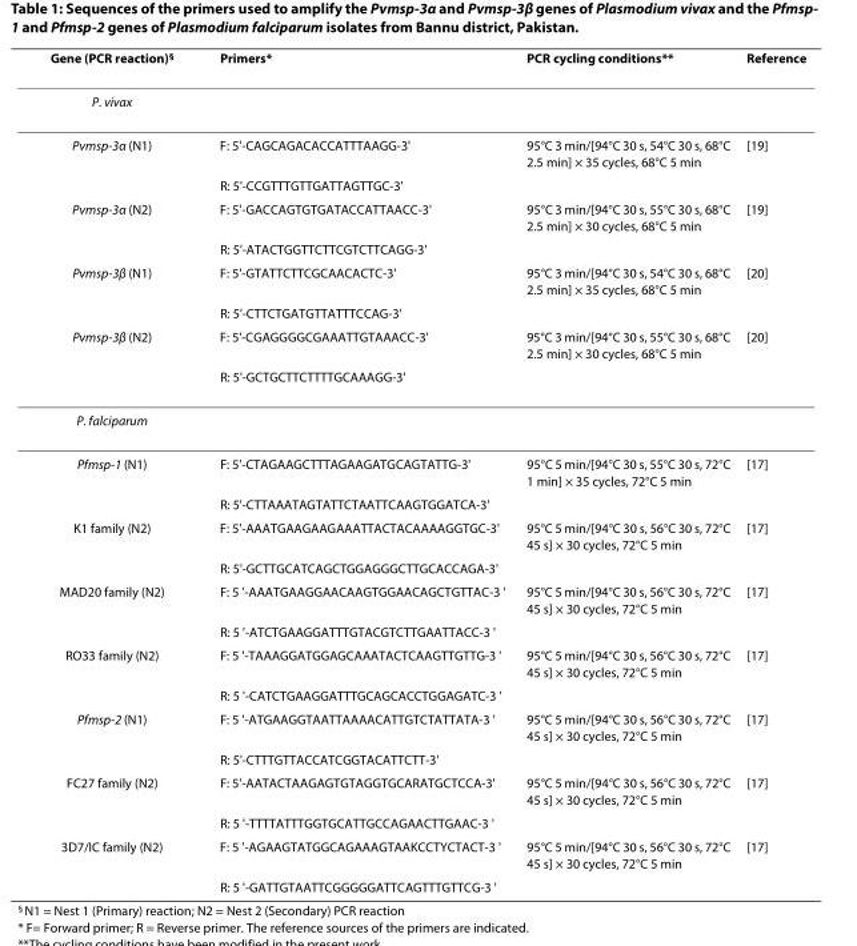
<table><thead><tr><td>Gene (PCR reaction)<sup>§</sup></td><td>Primers*</td><td>PCR cycling conditions**</td><td>Reference</td></tr></thead><tbody><tr><td colspan="4">P. vivax</td></tr><tr><td rowspan="2">Pvmsp-3α (N1)</td><td>F: 5&#x27;-CAGCAGACACCATTTAAGG-3&#x27;</td><td>95°C 3 min/[94°C 30 s, 54°C 30 s, 68°C 2.5 min] × 35 cycles, 68°C 5 min</td><td>[19]</td></tr><tr><td>R: 5&#x27;-CCGTTTGTTGATTAGTTGC-3&#x27;</td><td></td><td></td></tr><tr><td rowspan="2">Pvmsp-3α (N2)</td><td>F: 5&#x27;-GACCAGTGTGATACCATTAACC-3&#x27;</td><td>95°C 3 min/[94°C 30 s, 55°C 30 s, 68°C 2.5 min] × 30 cycles, 68°C 5 min</td><td>[19]</td></tr><tr><td>R: 5&#x27;-ATACTGGTTCTTCGTCTTCAGG-3&#x27;</td><td></td><td></td></tr><tr><td rowspan="2">Pvmsp-3β (N1)</td><td>F: 5&#x27;-GTATTCTTCGCAACACTC-3&#x27;</td><td>95°C 3 min/[94°C 30 s, 54°C 30 s, 68°C 2.5 min] × 35 cycles, 68°C 5 min</td><td>[20]</td></tr><tr><td>R: 5&#x27;-CTTCTGATGTTATTTCCAG-3&#x27;</td><td></td><td></td></tr><tr><td rowspan="2">Pvmsp-3β (N2)</td><td>F: 5&#x27;-CGAGGGGCGAAATTGTAAACC-3&#x27;</td><td>95°C 3 min/[94°C 30 s, 55°C 30 s, 68°C 2.5 min] × 30 cycles, 68°C 5 min</td><td>[20]</td></tr><tr><td>R: 5&#x27;-GCTGCTTCTTTTGCAAAGG-3&#x27;</td><td></td><td></td></tr><tr><td colspan="4">P. falciparum</td></tr><tr><td rowspan="2">Pfmsp-1 (N1)</td><td>F: 5&#x27;-CTAGAAGCTTTAGAAGATGCAGTATTG-3&#x27;</td><td>95°C 5 min/[94°C 30 s, 55°C 30 s, 72°C 1 min] × 35 cycles, 72°C 5 min</td><td>[17]</td></tr><tr><td>R: 5&#x27;-CTTAAATAGTATTCTAATTCAAGTGGATCA-3&#x27;</td><td></td><td></td></tr><tr><td rowspan="2">K1 family (N2)</td><td>F: 5&#x27;-AAATGAAGAAGAAATTACTACAAAAGGTGC-3&#x27;</td><td>95°C 5 min/[94°C 30 s, 56°C 30 s, 72°C 45 s] × 30 cycles, 72°C 5 min</td><td>[17]</td></tr><tr><td>R: 5&#x27;-GCTTGCATCAGCTGGAGGGCTTGCACCAGA-3&#x27;</td><td></td><td></td></tr><tr><td rowspan="2">MAD20 family (N2)</td><td>F: 5 &#x27;-AAATGAAGGAACAAGTGGAACAGCTGTTAC-3 &#x27;</td><td>95°C 5 min/[94°C 30 s, 56°C 30 s, 72°C 45 s] × 30 cycles, 72°C 5 min</td><td>[17]</td></tr><tr><td>R: 5 &#x27;-ATCTGAAGGATTTGTACGTCTTGAATTACC-3 &#x27;</td><td></td><td></td></tr><tr><td rowspan="2">RO33 family (N2)</td><td>F: 5 &#x27;-TAAAGGATGGAGCAAATACTCAAGTTGTTG-3 &#x27;</td><td>95°C 5 min/[94°C 30 s, 56°C 30 s, 72°C 45 s] × 30 cycles, 72°C 5 min</td><td>[17]</td></tr><tr><td>R: 5 &#x27;-CATCTGAAGGATTTGCAGCACCTGGAGATC-3 &#x27;</td><td></td><td></td></tr><tr><td rowspan="2">Pfmsp-2 (N1)</td><td>F: 5 &#x27;-ATGAAGGTAATTAAAACATTGTCTATTATA-3 &#x27;</td><td>95°C 5 min/[94°C 30 s, 56°C 30 s, 72°C 45 s] × 30 cycles, 72°C 5 min</td><td>[17]</td></tr><tr><td>R: 5&#x27;-CTTTGTTACCATCGGTACATTCTT-3&#x27;</td><td></td><td></td></tr><tr><td rowspan="2">FC27 family (N2)</td><td>F: 5&#x27;-AATACTAAGAGTGTAGGTGCARATGCTCCA-3&#x27;</td><td>95°C 5 min/[94°C 30 s, 56°C 30 s, 72°C 45 s] × 30 cycles, 72°C 5 min</td><td>[17]</td></tr><tr><td>R: 5 &#x27;-TTTTATTTGGTGCATTGCCAGAACTTGAAC-3 &#x27;</td><td></td><td></td></tr><tr><td rowspan="2">3D7/IC family (N2)</td><td>F: 5 &#x27;-AGAAGTATGGCAGAAAGTAAKCCTYCTACT-3 &#x27;</td><td>95°C 5 min/[94°C 30 s, 56°C 30 s, 72°C 45 s] × 30 cycles, 72°C 5 min</td><td>[17]</td></tr><tr><td>R: 5 &#x27;-GATTGTAATTCGGGGGATTCAGTTTGTTCG-3 &#x27;</td><td></td><td></td></tr></tbody></table>